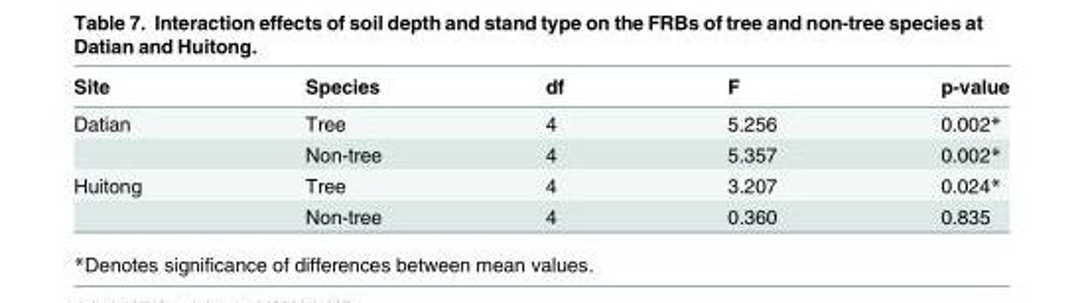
<table><thead><tr><td>Site</td><td>Species</td><td>df</td><td>F</td><td>p-value</td></tr></thead><tbody><tr><td rowspan="2">Datian</td><td>Tree</td><td>4</td><td>5.256</td><td>0.002*</td></tr><tr><td>Non-tree</td><td>4</td><td>5.357</td><td>0.002*</td></tr><tr><td rowspan="2">Huitong</td><td>Tree</td><td>4</td><td>3.207</td><td>0.024*</td></tr><tr><td>Non-tree</td><td>4</td><td>0.360</td><td>0.835</td></tr></tbody></table>